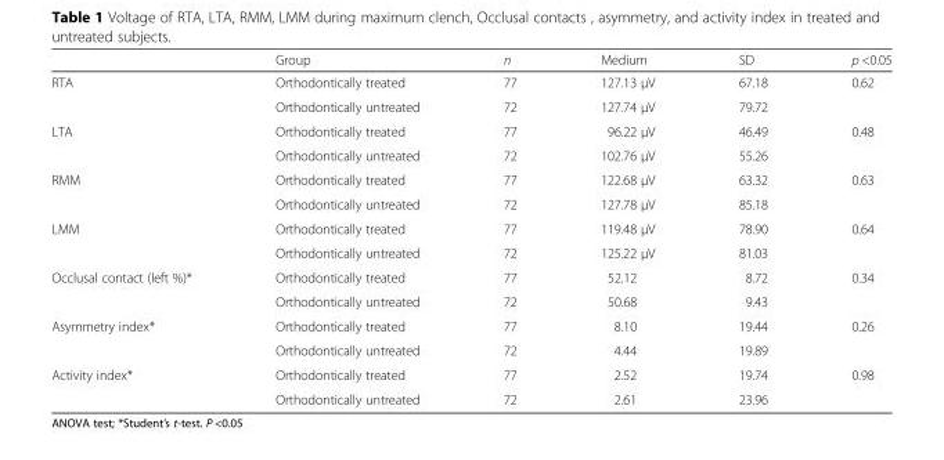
<table><thead><tr><td></td><td>Group</td><td>n</td><td>Medium</td><td>SD</td><td>p &lt;0.05</td></tr></thead><tbody><tr><td rowspan="2">RTA</td><td>Orthodontically treated</td><td>77</td><td>127.13 μV</td><td>67.18</td><td rowspan="2">0.62</td></tr><tr><td>Orthodontically untreated</td><td>72</td><td>127.74 μV</td><td>79.72</td></tr><tr><td rowspan="2">LTA</td><td>Orthodontically treated</td><td>77</td><td>96.22 μV</td><td>46.49</td><td rowspan="2">0.48</td></tr><tr><td>Orthodontically untreated</td><td>72</td><td>102.76 μV</td><td>55.26</td></tr><tr><td rowspan="2">RMM</td><td>Orthodontically treated</td><td>77</td><td>122.68 μV</td><td>63.32</td><td rowspan="2">0.63</td></tr><tr><td>Orthodontically untreated</td><td>72</td><td>127.78 μV</td><td>85.18</td></tr><tr><td rowspan="2">LMM</td><td>Orthodontically treated</td><td>77</td><td>119.48 μV</td><td>78.90</td><td rowspan="2">0.64</td></tr><tr><td>Orthodontically untreated</td><td>72</td><td>125.22 μV</td><td>81.03</td></tr><tr><td rowspan="2">Occlusal contact (left %)*</td><td>Orthodontically treated</td><td>77</td><td>52.12</td><td>8.72</td><td rowspan="2">0.34</td></tr><tr><td>Orthodontically untreated</td><td>72</td><td>50.68</td><td>9.43</td></tr><tr><td rowspan="2">Asymmetry index*</td><td>Orthodontically treated</td><td>77</td><td>8.10</td><td>19.44</td><td rowspan="2">0.26</td></tr><tr><td>Orthodontically untreated</td><td>72</td><td>4.44</td><td>19.89</td></tr><tr><td rowspan="2">Activity index*</td><td>Orthodontically treated</td><td>77</td><td>2.52</td><td>19.74</td><td rowspan="2">0.98</td></tr><tr><td>Orthodontically untreated</td><td>72</td><td>2.61</td><td>23.96</td></tr></tbody></table>